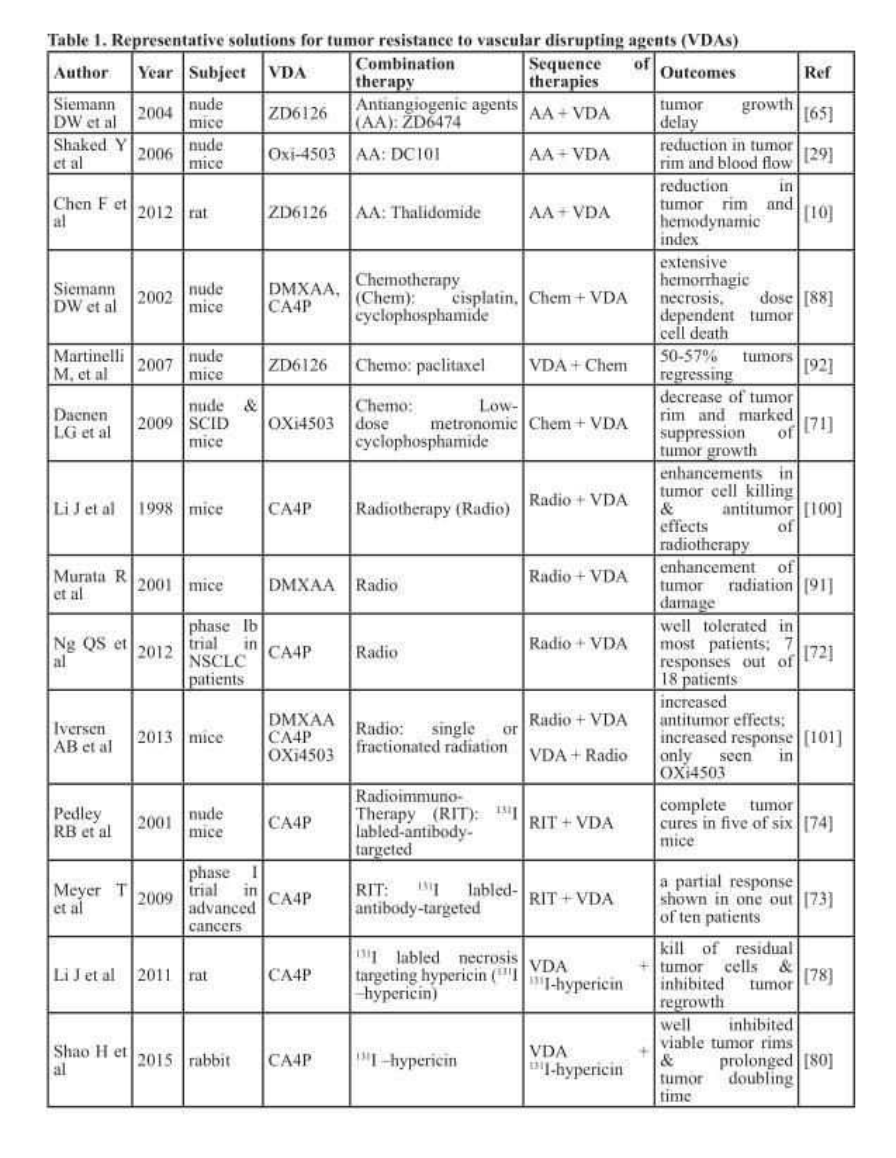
<table><thead><tr><td>Author</td><td>Year</td><td>Subject</td><td>VDA</td><td>Combination therapy</td><td>Sequence of therapies</td><td>Outcomes</td><td>Ref</td></tr></thead><tbody><tr><td>Siemann DW et al</td><td>2004</td><td>nude mice</td><td>ZD6126</td><td>Antiangiogenic agents (AA): ZD6474</td><td>AA + VDA</td><td>tumor growth delay</td><td>[65]</td></tr><tr><td>Shaked Y et al</td><td>2006</td><td>nude mice</td><td>Oxi-4503</td><td>AA: DC101</td><td>AA + VDA</td><td>reduction in tumor rim and blood flow</td><td>[29]</td></tr><tr><td>Chen F et al</td><td>2012</td><td>rat</td><td>ZD6126</td><td>AA: Thalidomide</td><td>AA + VDA</td><td>reduction in tumor rim and hemodynamic index</td><td>[10]</td></tr><tr><td>Siemann DW et al</td><td>2002</td><td>nude mice</td><td>DMXAA, CA4P</td><td>Chemotherapy (Chem): cisplatin, cyclophosphamide</td><td>Chem + VDA</td><td>extensive hemorrhagic necrosis, dose dependent tumor cell death</td><td>[88]</td></tr><tr><td>Martinelli M, et al</td><td>2007</td><td>nude mice</td><td>ZD6126</td><td>Chemo: paclitaxel</td><td>VDA + Chem</td><td>50-57% tumors regressing</td><td>[92]</td></tr><tr><td>Daenen LG et al</td><td>2009</td><td>nude &amp; SCID mice</td><td>OXi4503</td><td>Chemo: Low- dose metronomic cyclophosphamide</td><td>Chem + VDA</td><td>decrease of tumor rim and marked suppression of tumor growth</td><td>[71]</td></tr><tr><td>Li J et al</td><td>1998</td><td>mice</td><td>CA4P</td><td>Radiotherapy (Radio)</td><td>Radio + VDA</td><td>enhancements in tumor cell killing &amp; antitumor effects of radiotherapy</td><td>[100]</td></tr><tr><td>Murata R et al</td><td>2001</td><td>mice</td><td>DMXAA</td><td>Radio</td><td>Radio + VDA</td><td>enhancement of tumor radiation damage</td><td>[91]</td></tr><tr><td>Ng QS et al</td><td>2012</td><td>phase Ib trial in NSCLC patients</td><td>CA4P</td><td>Radio</td><td>Radio + VDA</td><td>well tolerated in most patients; 7 responses out of 18 patients</td><td>[72]</td></tr><tr><td>Iversen AB et al</td><td>2013</td><td>mice</td><td>DMXAA CA4P OXi4503</td><td>Radio: single or fractionated radiation</td><td>Radio + VDA VDA + Radio</td><td>increased antitumor effects; increased response only seen in OXi4503</td><td>[101]</td></tr><tr><td>Pedley RB et al</td><td>2001</td><td>nude mice</td><td>CA4P</td><td>Radioimmuno- Therapy (RIT): <sup>131</sup>I labled-antibody- targeted</td><td>RIT + VDA</td><td>complete tumor cures in five of six mice</td><td>[74]</td></tr><tr><td>Meyer T et al</td><td>2009</td><td>phase I trial in advanced cancers</td><td>CA4P</td><td>RIT: <sup>131</sup>I labled- antibody-targeted</td><td>RIT + VDA</td><td>a partial response shown in one out of ten patients</td><td>[73]</td></tr><tr><td>Li J et al</td><td>2011</td><td>rat</td><td>CA4P</td><td><sup>131</sup>I labled necrosis targeting hypericin (<sup>131</sup>I –hypericin)</td><td>VDA + <sup>131</sup>I-hypericin</td><td>kill of residual tumor cells &amp; inhibited tumor regrowth</td><td>[78]</td></tr><tr><td>Shao H et al</td><td>2015</td><td>rabbit</td><td>CA4P</td><td><sup>131</sup>I –hypericin</td><td>VDA + <sup>131</sup>I-hypericin</td><td>well inhibited viable tumor rims &amp; prolonged tumor doubling time</td><td>[80]</td></tr></tbody></table>